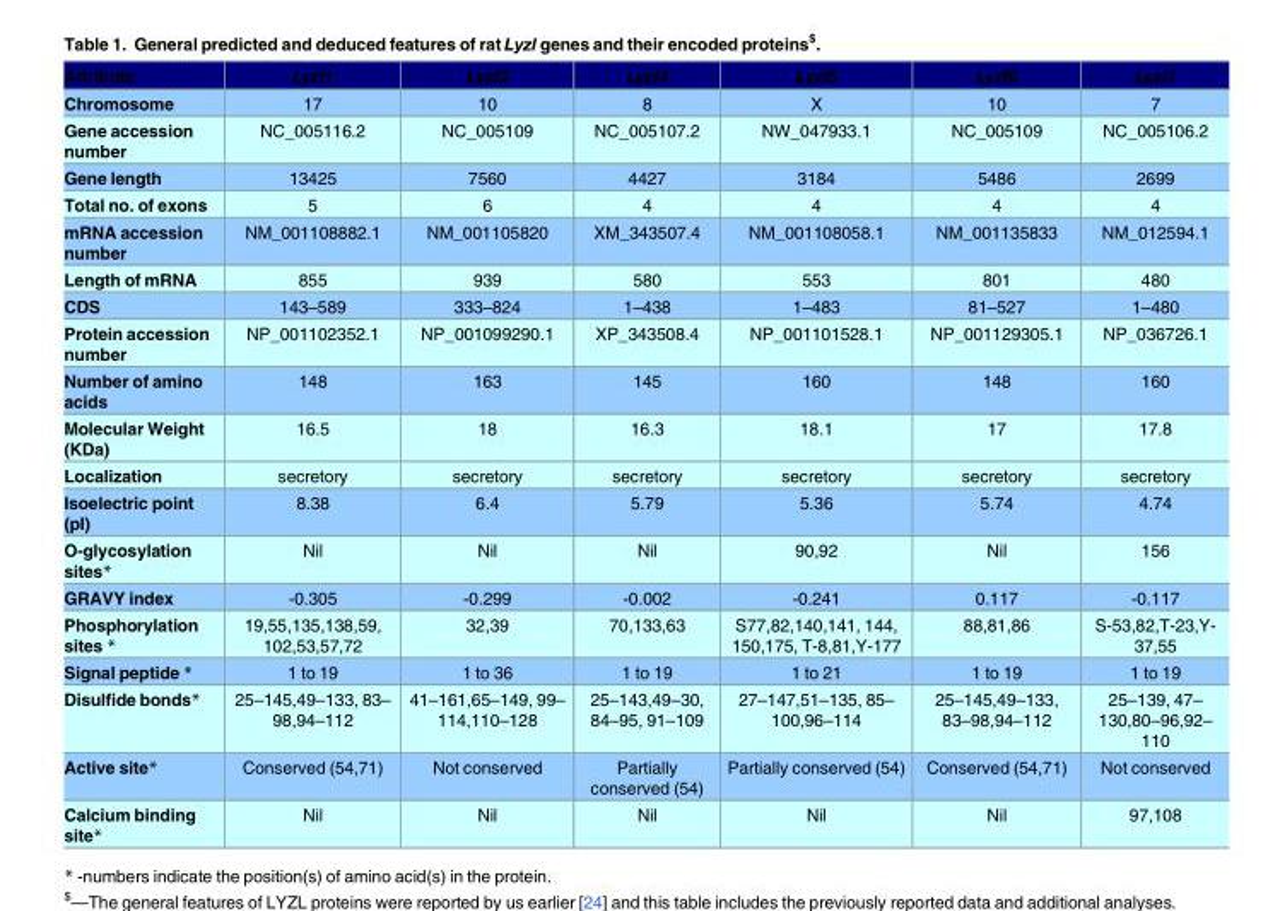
<table><thead><tr><td>Attribute</td><td>Lyzl1</td><td>Lyzl3</td><td>Lyzl4</td><td>Lyzl5</td><td>Lyzl6</td><td>Lyzl7</td></tr></thead><tbody><tr><td>Chromosome</td><td>17</td><td>10</td><td>8</td><td>X</td><td>10</td><td>7</td></tr><tr><td>Gene accession number</td><td>NC_005116.2</td><td>NC_005109</td><td>NC_005107.2</td><td>NW_047933.1</td><td>NC_005109</td><td>NC_005106.2</td></tr><tr><td>Gene length</td><td>13425</td><td>7560</td><td>4427</td><td>3184</td><td>5486</td><td>2699</td></tr><tr><td>Total no. of exons</td><td>5</td><td>6</td><td>4</td><td>4</td><td>4</td><td>4</td></tr><tr><td>mRNA accession number</td><td>NM_001108882.1</td><td>NM_001105820</td><td>XM_343507.4</td><td>NM_001108058.1</td><td>NM_001135833</td><td>NM_012594.1</td></tr><tr><td>Length of mRNA</td><td>855</td><td>939</td><td>580</td><td>553</td><td>801</td><td>480</td></tr><tr><td>CDS</td><td>143–589</td><td>333–824</td><td>1–438</td><td>1–483</td><td>81–527</td><td>1–480</td></tr><tr><td>Protein accession number</td><td>NP_001102352.1</td><td>NP_001099290.1</td><td>XP_343508.4</td><td>NP_001101528.1</td><td>NP_001129305.1</td><td>NP_036726.1</td></tr><tr><td>Number of amino acids</td><td>148</td><td>163</td><td>145</td><td>160</td><td>148</td><td>160</td></tr><tr><td>Molecular Weight (KDa)</td><td>16.5</td><td>18</td><td>16.3</td><td>18.1</td><td>17</td><td>17.8</td></tr><tr><td>Localization</td><td>secretory</td><td>secretory</td><td>secretory</td><td>secretory</td><td>secretory</td><td>secretory</td></tr><tr><td>Isoelectric point (pI)</td><td>8.38</td><td>6.4</td><td>5.79</td><td>5.36</td><td>5.74</td><td>4.74</td></tr><tr><td>O-glycosylation sites*</td><td>Nil</td><td>Nil</td><td>Nil</td><td>90,92</td><td>Nil</td><td>156</td></tr><tr><td>GRAVY index</td><td>-0.305</td><td>-0.299</td><td>-0.002</td><td>-0.241</td><td>0.117</td><td>-0.117</td></tr><tr><td>Phosphorylation sites *</td><td>19,55,135,138,59, 102,53,57,72</td><td>32,39</td><td>70,133,63</td><td>S77,82,140,141, 144, 150,175, T-8,81,Y-177</td><td>88,81,86</td><td>S-53,82,T-23,Y- 37,55</td></tr><tr><td>Signal peptide *</td><td>1 to 19</td><td>1 to 36</td><td>1 to 19</td><td>1 to 21</td><td>1 to 19</td><td>1 to 19</td></tr><tr><td>Disulfide bonds*</td><td>25–145,49–133, 83– 98,94–112</td><td>41–161,65–149, 99– 114,110–128</td><td>25–143,49–30, 84–95, 91–109</td><td>27–147,51–135, 85– 100,96–114</td><td>25–145,49–133, 83–98,94–112</td><td>25–139, 47– 130,80–96,92– 110</td></tr><tr><td>Active site*</td><td>Conserved (54,71)</td><td>Not conserved</td><td>Partially conserved (54)</td><td>Partially conserved (54)</td><td>Conserved (54,71)</td><td>Not conserved</td></tr><tr><td>Calcium binding site*</td><td>Nil</td><td>Nil</td><td>Nil</td><td>Nil</td><td>Nil</td><td>97,108</td></tr></tbody></table>